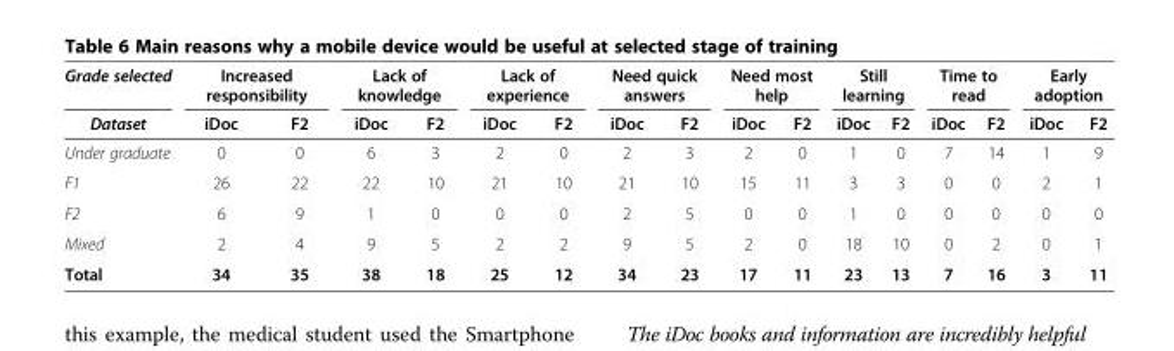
<table><thead><tr><td rowspan="2">Grade selected Dataset</td><td colspan="2">Increased responsibility</td><td colspan="2">Lack of knowledge</td><td colspan="2">Lack of experience</td><td colspan="2">Need quick answers</td><td colspan="2">Need most help</td><td colspan="2">Still learning</td><td colspan="2">Time to read</td><td colspan="2">Early adoption</td></tr><tr><td>iDoc</td><td>F2</td><td>iDoc</td><td>F2</td><td>iDoc</td><td>F2</td><td>iDoc</td><td>F2</td><td>iDoc</td><td>F2</td><td>iDoc</td><td>F2</td><td>iDoc</td><td>F2</td><td>iDoc</td><td>F2</td></tr></thead><tbody><tr><td>Under graduate</td><td>0</td><td>0</td><td>6</td><td>3</td><td>2</td><td>0</td><td>2</td><td>3</td><td>2</td><td>0</td><td>1</td><td>0</td><td>7</td><td>14</td><td>1</td><td>9</td></tr><tr><td>F1</td><td>26</td><td>22</td><td>22</td><td>10</td><td>21</td><td>10</td><td>21</td><td>10</td><td>15</td><td>11</td><td>3</td><td>3</td><td>0</td><td>0</td><td>2</td><td>1</td></tr><tr><td>F2</td><td>6</td><td>9</td><td>1</td><td>0</td><td>0</td><td>0</td><td>2</td><td>5</td><td>0</td><td>0</td><td>1</td><td>0</td><td>0</td><td>0</td><td>0</td><td>0</td></tr><tr><td>Mixed</td><td>2</td><td>4</td><td>9</td><td>5</td><td>2</td><td>2</td><td>9</td><td>5</td><td>2</td><td>0</td><td>18</td><td>10</td><td>0</td><td>2</td><td>0</td><td>1</td></tr><tr><td>Total</td><td>34</td><td>35</td><td>38</td><td>18</td><td>25</td><td>12</td><td>34</td><td>23</td><td>17</td><td>11</td><td>23</td><td>13</td><td>7</td><td>16</td><td>3</td><td>11</td></tr></tbody></table>